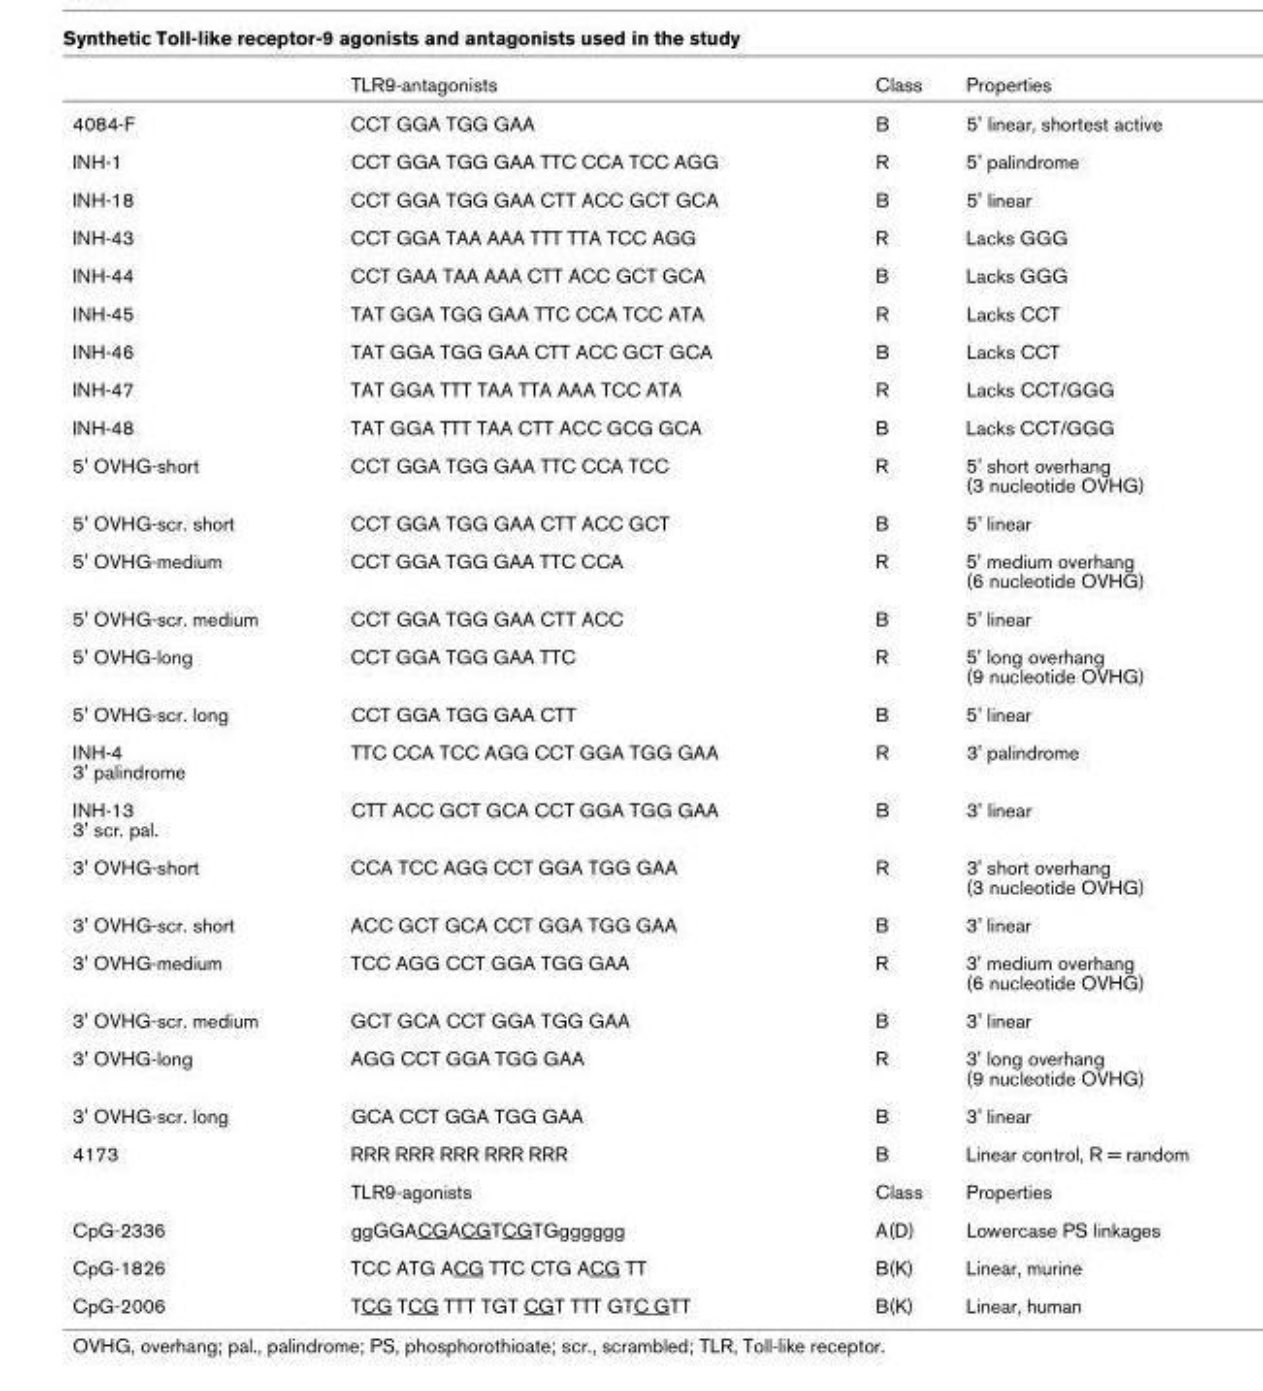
<table><thead><tr><td></td><td>TLR9-antagonists</td><td>Class</td><td>Properties</td></tr></thead><tbody><tr><td>4084-F</td><td>CCT GGA TGG GAA</td><td>B</td><td>5&#x27; linear, shortest active</td></tr><tr><td>INH-1</td><td>CCT GGA TGG GAA TTC CCA TCC AGG</td><td>R</td><td>5&#x27; palindrome</td></tr><tr><td>INH-18</td><td>CCT GGA TGG GAA CTT ACC GCT GCA</td><td>B</td><td>5&#x27; linear</td></tr><tr><td>INH-43</td><td>CCT GGA TAA AAA TTT TTA TCC AGG</td><td>R</td><td>Lacks GGG</td></tr><tr><td>INH-44</td><td>CCT GAA TAA AAA CTT ACC GCT GCA</td><td>B</td><td>Lacks GGG</td></tr><tr><td>INH-45</td><td>TAT GGA TGG GAA TTC CCA TCC ATA</td><td>R</td><td>Lacks CCT</td></tr><tr><td>INH-46</td><td>TAT GGA TGG GAA CTT ACC GCT GCA</td><td>B</td><td>Lacks CCT</td></tr><tr><td>INH-47</td><td>TAT GGA TTT TAA TTA AAA TCC ATA</td><td>R</td><td>Lacks CCT/GGG</td></tr><tr><td>INH-48</td><td>TAT GGA TTT TAA CTT ACC GCG GCA</td><td>B</td><td>Lacks CCT/GGG</td></tr><tr><td>5&#x27; OVHG-short</td><td>CCT GGA TGG GAA TTC CCA TCC</td><td>R</td><td>5&#x27; short overhang (3 nucleotide OVHG)</td></tr><tr><td>5&#x27; OVHG-scr. short</td><td>CCT GGA TGG GAA CTT ACC GCT</td><td>B</td><td>5&#x27; linear</td></tr><tr><td>5&#x27; OVHG-medium</td><td>CCT GGA TGG GAA TTC CCA</td><td>R</td><td>5&#x27; medium overhang (6 nucleotide OVHG)</td></tr><tr><td>5&#x27; OVHG-scr. medium</td><td>CCT GGA TGG GAA CTT ACC</td><td>B</td><td>5&#x27; linear</td></tr><tr><td>5&#x27; OVHG-long</td><td>CCT GGA TGG GAA TTC</td><td>R</td><td>5&#x27; long overhang (9 nucleotide OVHG)</td></tr><tr><td>5&#x27; OVHG-scr. long</td><td>CCT GGA TGG GAA CTT</td><td>B</td><td>5&#x27; linear</td></tr><tr><td>INH-4 3&#x27; palindrome</td><td>TTC CCA TCC AGG CCT GGA TGG GAA</td><td>R</td><td>3&#x27; palindrome</td></tr><tr><td>INH-13 3&#x27; scr. pal.</td><td>CTT ACC GCT GCA CCT GGA TGG GAA</td><td>B</td><td>3&#x27; linear</td></tr><tr><td>3&#x27; OVHG-short</td><td>CCA TCC AGG CCT GGA TGG GAA</td><td>R</td><td>3&#x27; short overhang (3 nucleotide OVHG)</td></tr><tr><td>3&#x27; OVHG-scr. short</td><td>ACC GCT GCA CCT GGA TGG GAA</td><td>B</td><td>3&#x27; linear</td></tr><tr><td>3&#x27; OVHG-medium</td><td>TCC AGG CCT GGA TGG GAA</td><td>R</td><td>3&#x27; medium overhang (6 nucleotide OVHG)</td></tr><tr><td>3&#x27; OVHG-scr. medium</td><td>GCT GCA CCT GGA TGG GAA</td><td>B</td><td>3&#x27; linear</td></tr><tr><td>3&#x27; OVHG-long</td><td>AGG CCT GGA TGG GAA</td><td>R</td><td>3&#x27; long overhang (9 nucleotide OVHG)</td></tr><tr><td>3&#x27; OVHG-scr. long</td><td>GCA CCT GGA TGG GAA</td><td>B</td><td>3&#x27; linear</td></tr><tr><td rowspan="2">4173</td><td>RRR RRR RRR RRR RRR</td><td>B</td><td>Linear control, R = random</td></tr><tr><td>TLR9-agonists</td><td>Class</td><td>Properties</td></tr><tr><td>CpG-2336</td><td>ggGGACGACGTCGTGgggggg</td><td>A(D)</td><td>Lowercase PS linkages</td></tr><tr><td>CpG-1826</td><td>TCC ATG ACG TTC CTG ACG TT</td><td>B(K)</td><td>Linear, murine</td></tr><tr><td>CpG-2006</td><td>TCG TCG TTT TGT CGT TTT GTC GTT</td><td>B(K)</td><td>Linear, human</td></tr></tbody></table>